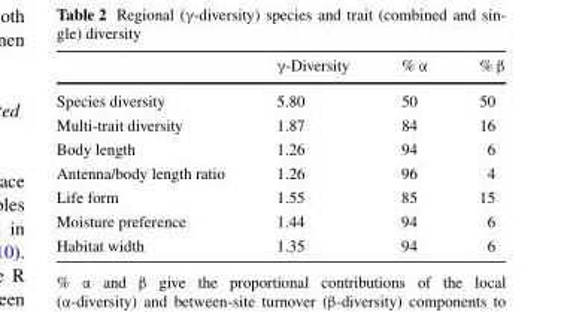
<table><thead><tr><td></td><td>γ-Diversity</td><td>% α</td><td>% β</td></tr></thead><tbody><tr><td>Species diversity</td><td>5.80</td><td>50</td><td>50</td></tr><tr><td>Multi-trait diversity</td><td>1.87</td><td>84</td><td>16</td></tr><tr><td>Body length</td><td>1.26</td><td>94</td><td>6</td></tr><tr><td>Antenna/body length ratio</td><td>1.26</td><td>96</td><td>4</td></tr><tr><td>Life form</td><td>1.55</td><td>85</td><td>15</td></tr><tr><td>Moisture preference</td><td>1.44</td><td>94</td><td>6</td></tr><tr><td>Habitat width</td><td>1.35</td><td>94</td><td>6</td></tr></tbody></table>